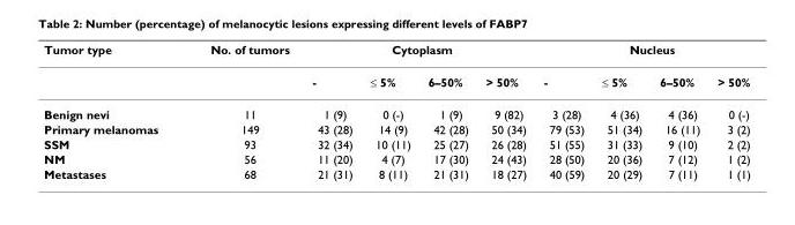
<table><thead><tr><td rowspan="2">Tumor type</td><td rowspan="2">No. of tumors</td><td colspan="4">Cytoplasm</td><td colspan="4">Nucleus</td></tr><tr><td>-</td><td>≤ 5%</td><td>6–50%</td><td>&gt; 50%</td><td>-</td><td>≤ 5%</td><td>6–50%</td><td>&gt; 50%</td></tr></thead><tbody><tr><td>Benign nevi</td><td>11</td><td>1 (9)</td><td>0 (-)</td><td>1 (9)</td><td>9 (82)</td><td>3 (28)</td><td>4 (36)</td><td>4 (36)</td><td>0 (-)</td></tr><tr><td>Primary melanomas</td><td>149</td><td>43 (28)</td><td>14 (9)</td><td>42 (28)</td><td>50 (34)</td><td>79 (53)</td><td>51 (34)</td><td>16 (11)</td><td>3 (2)</td></tr><tr><td>SSM</td><td>93</td><td>32 (34)</td><td>10 (11)</td><td>25 (27)</td><td>26 (28)</td><td>51 (55)</td><td>31 (33)</td><td>9 (10)</td><td>2 (2)</td></tr><tr><td>NM</td><td>56</td><td>11 (20)</td><td>4 (7)</td><td>17 (30)</td><td>24 (43)</td><td>28 (50)</td><td>20 (36)</td><td>7 (12)</td><td>1 (2)</td></tr><tr><td>Metastases</td><td>68</td><td>21 (31)</td><td>8 (11)</td><td>21 (31)</td><td>18 (27)</td><td>40 (59)</td><td>20 (29)</td><td>7 (11)</td><td>1 (1)</td></tr></tbody></table>